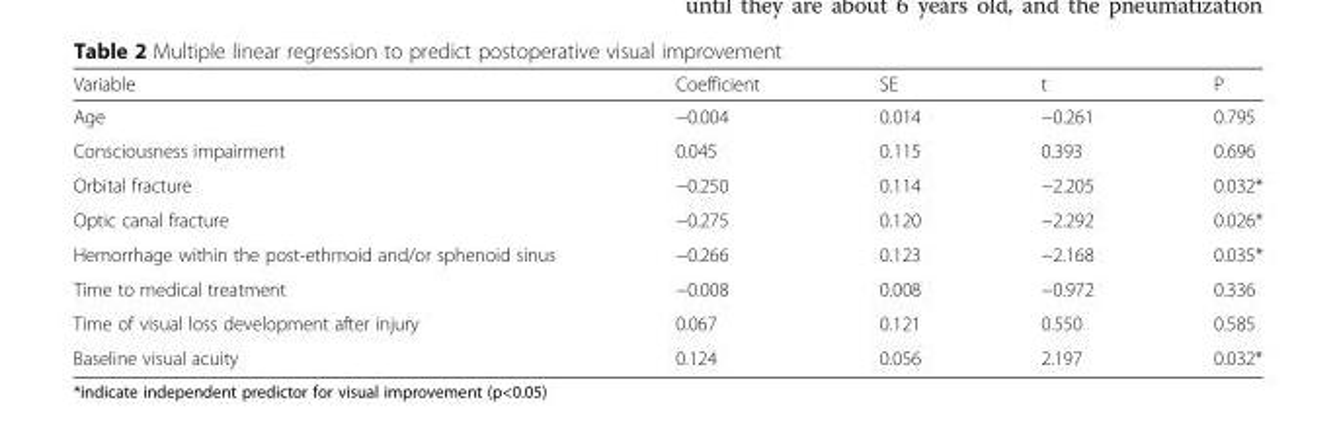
<table><thead><tr><td>Variable</td><td>Coefficient</td><td>SE</td><td>t</td><td>P</td></tr></thead><tbody><tr><td>Age</td><td>−0.004</td><td>0.014</td><td>−0.261</td><td>0.795</td></tr><tr><td>Consciousness impairment</td><td>0.045</td><td>0.115</td><td>0.393</td><td>0.696</td></tr><tr><td>Orbital fracture</td><td>−0.250</td><td>0.114</td><td>−2.205</td><td>0.032*</td></tr><tr><td>Optic canal fracture</td><td>−0.275</td><td>0.120</td><td>−2.292</td><td>0.026*</td></tr><tr><td>Hemorrhage within the post-ethmoid and/or sphenoid sinus</td><td>−0.266</td><td>0.123</td><td>−2.168</td><td>0.035*</td></tr><tr><td>Time to medical treatment</td><td>−0.008</td><td>0.008</td><td>−0.972</td><td>0.336</td></tr><tr><td>Time of visual loss development after injury</td><td>0.067</td><td>0.121</td><td>0.550</td><td>0.585</td></tr><tr><td>Baseline visual acuity</td><td>0.124</td><td>0.056</td><td>2.197</td><td>0.032*</td></tr></tbody></table>